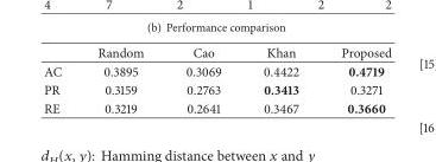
<table><thead><tr><td></td><td>Random</td><td>Cao</td><td>Khan</td><td>Proposed</td></tr></thead><tbody><tr><td>AC</td><td>0.3895</td><td>0.3069</td><td>0.4422</td><td>0.4719</td></tr><tr><td>PR</td><td>0.3159</td><td>0.2763</td><td>0.3413</td><td>0.3271</td></tr><tr><td>RE</td><td>0.3219</td><td>0.2641</td><td>0.3467</td><td>0.3660</td></tr></tbody></table>